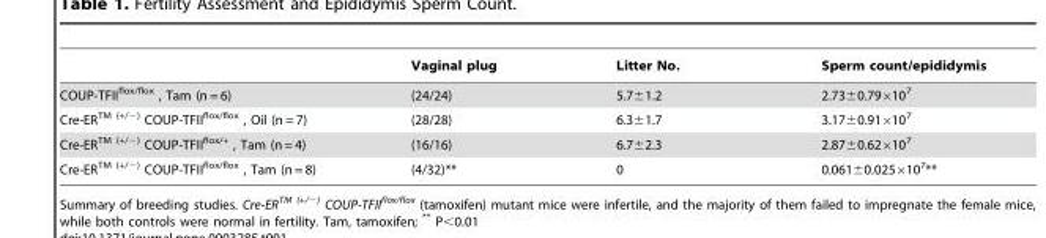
<table><thead><tr><td></td><td>Vaginal plug</td><td>Litter No.</td><td>Sperm count/epididymis</td></tr></thead><tbody><tr><td>COUP-TFII<sup>flox/flox</sup> , Tam (n = 6)</td><td>(24/24)</td><td>5.7±1.2</td><td>2.73±0.79×10<sup>7</sup></td></tr><tr><td>Cre-ER<sup>TM (+/−)</sup> COUP-TFII<sup>flox/flox</sup> , Oil (n = 7)</td><td>(28/28)</td><td>6.3±1.7</td><td>3.17±0.91×10<sup>7</sup></td></tr><tr><td>Cre-ER<sup>TM (+/−)</sup> COUP-TFII<sup>flox/+</sup> , Tam (n = 4)</td><td>(16/16)</td><td>6.7±2.3</td><td>2.87±0.62×10<sup>7</sup></td></tr><tr><td>Cre-ER<sup>TM (+/−)</sup> COUP-TFII<sup>flox/flox</sup> , Tam (n = 8)</td><td>(4/32)**</td><td>0</td><td>0.061±0.025×10<sup>7</sup>**</td></tr></tbody></table>